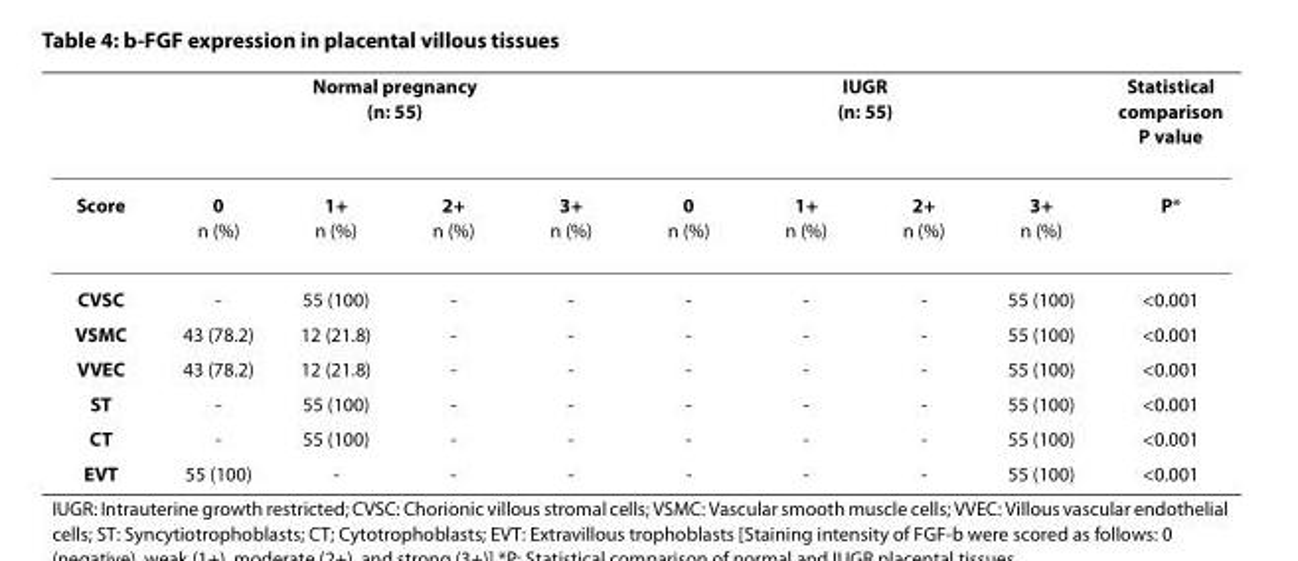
<table><thead><tr><td rowspan="2">Score</td><td colspan="4">Normal pregnancy (n: 55)</td><td colspan="4">IUGR (n: 55)</td><td rowspan="2">Statistical comparison P value P*</td></tr><tr><td>0 n (%)</td><td>1+ n (%)</td><td>2+ n (%)</td><td>3+ n (%)</td><td>0 n (%)</td><td>1+ n (%)</td><td>2+ n (%)</td><td>3+ n (%)</td></tr></thead><tbody><tr><td>CVSC</td><td>-</td><td>55 (100)</td><td>-</td><td>-</td><td>-</td><td>-</td><td>-</td><td>55 (100)</td><td>&lt;0.001</td></tr><tr><td>VSMC</td><td>43 (78.2)</td><td>12 (21.8)</td><td>-</td><td>-</td><td>-</td><td>-</td><td>-</td><td>55 (100)</td><td>&lt;0.001</td></tr><tr><td>VVEC</td><td>43 (78.2)</td><td>12 (21.8)</td><td>-</td><td>-</td><td>-</td><td>-</td><td>-</td><td>55 (100)</td><td>&lt;0.001</td></tr><tr><td>ST</td><td>-</td><td>55 (100)</td><td>-</td><td>-</td><td>-</td><td>-</td><td>-</td><td>55 (100)</td><td>&lt;0.001</td></tr><tr><td>CT</td><td>-</td><td>55 (100)</td><td>-</td><td>-</td><td>-</td><td>-</td><td>-</td><td>55 (100)</td><td>&lt;0.001</td></tr><tr><td>EVT</td><td>55 (100)</td><td>-</td><td>-</td><td>-</td><td>-</td><td>-</td><td>-</td><td>55 (100)</td><td>&lt;0.001</td></tr></tbody></table>